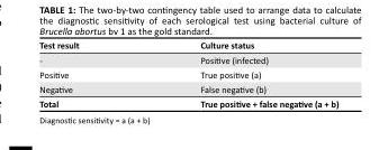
<table><thead><tr><td>Test result</td><td>Culture status</td></tr></thead><tbody><tr><td>-</td><td>Positive (infected)</td></tr><tr><td>Positive</td><td>True positive (a)</td></tr><tr><td>Negative</td><td>False negative (b)</td></tr><tr><td>Total</td><td>True positive + false negative (a + b)</td></tr></tbody></table>